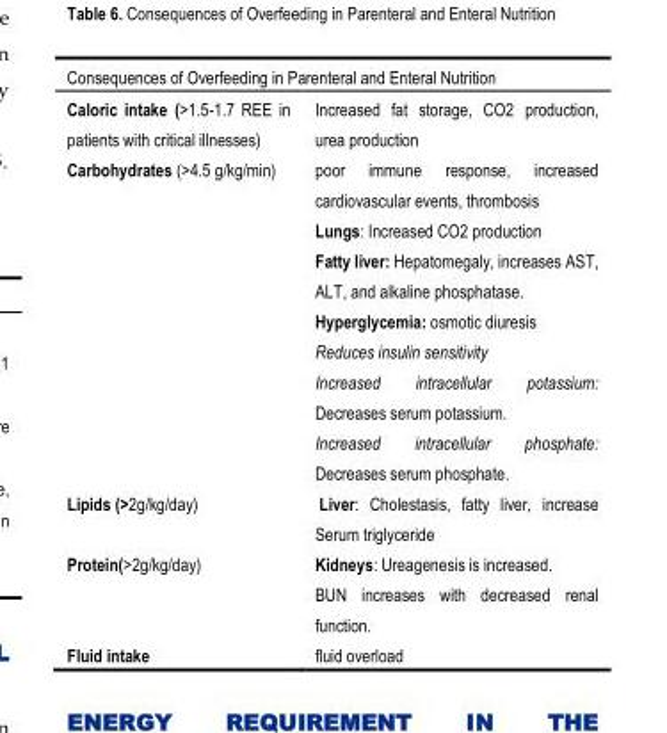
<table><thead><tr><td colspan="2">Consequences of Overfeeding in Parenteral and Enteral Nutrition</td></tr><tr><td>Caloric intake (&gt;1.5-1.7 REE in patients with critical illnesses)</td><td>Increased fat storage, CO2 production, urea production</td></tr></thead><tbody><tr><td rowspan="9">Carbohydrates (&gt;4.5 g/kg/min)</td><td>poor immune response, increased cardiovascular events, thrombosis</td></tr><tr><td>Lungs: Increased CO2 production</td></tr><tr><td>Fatty liver: Hepatomegaly, increases AST, ALT, and alkaline phosphatase.</td></tr><tr><td>Hyperglycemia: osmotic diuresis</td></tr><tr><td>Reduces insulin sensitivity</td></tr><tr><td>Increased intracellular potassium:</td></tr><tr><td>Decreases serum potassium.</td></tr><tr><td>Increased intracellular phosphate:</td></tr><tr><td>Decreases serum phosphate.</td></tr><tr><td>Lipids (&gt;2g/kg/day)</td><td>Liver: Cholestasis, fatty liver, increase Serum triglyceride</td></tr><tr><td rowspan="2">Protein(&gt;2g/kg/day)</td><td>Kidneys: Ureagenesis is increased.</td></tr><tr><td>BUN increases with decreased renal function.</td></tr><tr><td>Fluid intake</td><td>fluid overload</td></tr></tbody></table>